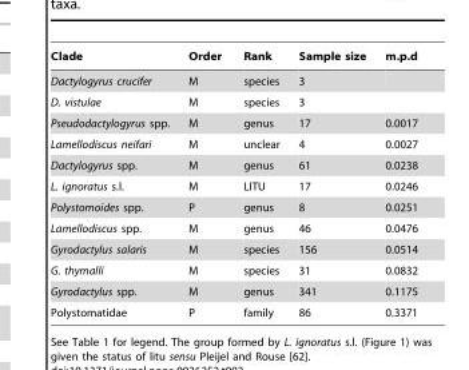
<table><thead><tr><td>Clade</td><td>Order</td><td>Rank</td><td>Sample size</td><td>m.p.d</td></tr></thead><tbody><tr><td>Dactylogyrus crucifer</td><td>M</td><td>species</td><td>3</td><td></td></tr><tr><td>D. vistulae</td><td>M</td><td>species</td><td>3</td><td></td></tr><tr><td>Pseudodactylogyrus spp.</td><td>M</td><td>genus</td><td>17</td><td>0.0017</td></tr><tr><td>Lamellodiscus neifari</td><td>M</td><td>unclear</td><td>4</td><td>0.0027</td></tr><tr><td>Dactylogyrus spp.</td><td>M</td><td>genus</td><td>61</td><td>0.0238</td></tr><tr><td>L. ignoratus s.l.</td><td>M</td><td>LITU</td><td>17</td><td>0.0246</td></tr><tr><td>Polystomoides spp.</td><td>P</td><td>genus</td><td>8</td><td>0.0251</td></tr><tr><td>Lamellodiscus spp.</td><td>M</td><td>genus</td><td>46</td><td>0.0476</td></tr><tr><td>Gyrodactylus salaris</td><td>M</td><td>species</td><td>156</td><td>0.0514</td></tr><tr><td>G. thymalli</td><td>M</td><td>species</td><td>31</td><td>0.0832</td></tr><tr><td>Gyrodactylus spp.</td><td>M</td><td>genus</td><td>341</td><td>0.1175</td></tr><tr><td>Polystomatidae</td><td>P</td><td>family</td><td>86</td><td>0.3371</td></tr></tbody></table>